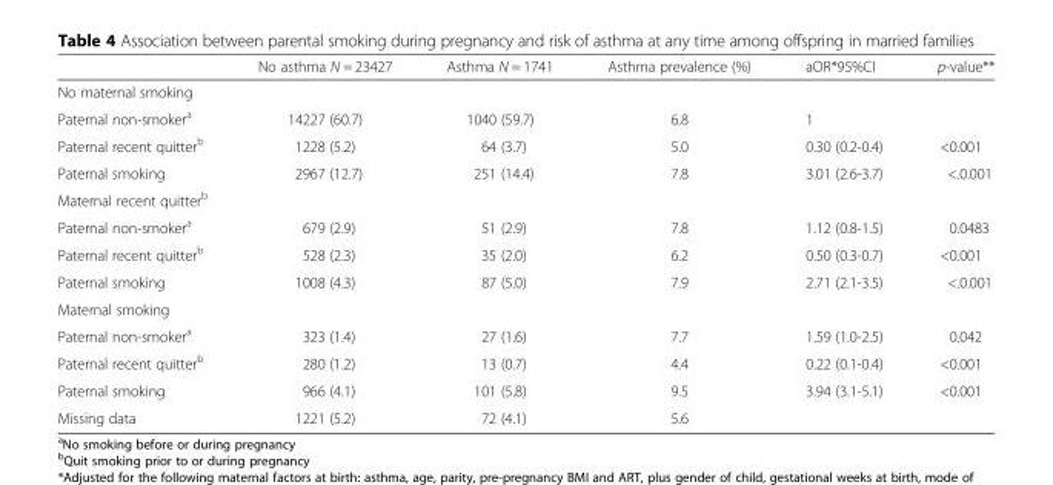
<table><thead><tr><td></td><td>No asthma N = 23427</td><td>Asthma N = 1741</td><td>Asthma prevalence (%)</td><td>aOR*95%CI</td><td>p-value**</td></tr></thead><tbody><tr><td colspan="6">No maternal smoking</td></tr><tr><td>Paternal non-smoker<sup>a</sup></td><td>14227 (60.7)</td><td>1040 (59.7)</td><td>6.8</td><td>1</td><td></td></tr><tr><td>Paternal recent quitter<sup>b</sup></td><td>1228 (5.2)</td><td>64 (3.7)</td><td>5.0</td><td>0.30 (0.2-0.4)</td><td>&lt;0.001</td></tr><tr><td>Paternal smoking</td><td>2967 (12.7)</td><td>251 (14.4)</td><td>7.8</td><td>3.01 (2.6-3.7)</td><td>&lt;.0.001</td></tr><tr><td colspan="6">Maternal recent quitter<sup>b</sup></td></tr><tr><td>Paternal non-smoker<sup>a</sup></td><td>679 (2.9)</td><td>51 (2.9)</td><td>7.8</td><td>1.12 (0.8-1.5)</td><td>0.0483</td></tr><tr><td>Paternal recent quitter<sup>b</sup></td><td>528 (2.3)</td><td>35 (2.0)</td><td>6.2</td><td>0.50 (0.3-0.7)</td><td>&lt;0.001</td></tr><tr><td>Paternal smoking</td><td>1008 (4.3)</td><td>87 (5.0)</td><td>7.9</td><td>2.71 (2.1-3.5)</td><td>&lt;.0.001</td></tr><tr><td colspan="6">Maternal smoking</td></tr><tr><td>Paternal non-smoker<sup>a</sup></td><td>323 (1.4)</td><td>27 (1.6)</td><td>7.7</td><td>1.59 (1.0-2.5)</td><td>0.042</td></tr><tr><td>Paternal recent quitter<sup>b</sup></td><td>280 (1.2)</td><td>13 (0.7)</td><td>4.4</td><td>0.22 (0.1-0.4)</td><td>&lt;0.001</td></tr><tr><td>Paternal smoking</td><td>966 (4.1)</td><td>101 (5.8)</td><td>9.5</td><td>3.94 (3.1-5.1)</td><td>&lt;0.001</td></tr><tr><td>Missing data</td><td>1221 (5.2)</td><td>72 (4.1)</td><td>5.6</td><td></td><td></td></tr></tbody></table>